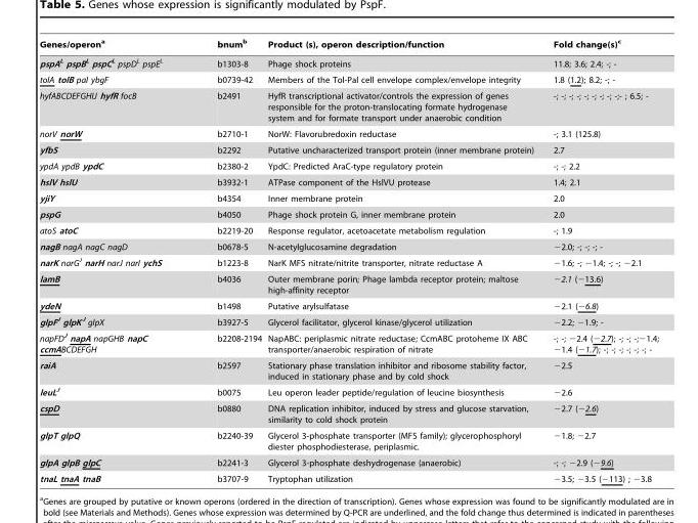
<table><thead><tr><td>Genes/operon<sup>a</sup></td><td>bnum<sup>b</sup></td><td>Product (s), operon description/function</td><td>Fold change(s)<sup>c</sup></td></tr></thead><tbody><tr><td>pspA<sup>L</sup> pspB<sup>L</sup> pspC<sup>L</sup> pspD<sup>L</sup> pspE<sup>L</sup></td><td>b1303-8</td><td>Phage shock proteins</td><td>11.8; 3.6; 2.4; -; -</td></tr><tr><td>tolA tolB pal ybgF</td><td>b0739-42</td><td>Members of the Tol-Pal cell envelope complex/envelope integrity</td><td>1.8 (1.2); 8.2; -; -</td></tr><tr><td>hyfABCDEFGHIJ hyfR focB</td><td>b2491</td><td>HyfR transcriptional activator/controls the expression of genes responsible for the proton-translocating formate hydrogenase system and for formate transport under anaerobic condition</td><td>-; -; -; -; -; -; -; -; -;- ; 6.5; -</td></tr><tr><td>norV norW</td><td>b2710-1</td><td>NorW: Flavorubredoxin reductase</td><td>-; 3.1 (125.8)</td></tr><tr><td>yfbS</td><td>b2292</td><td>Putative uncharacterized transport protein (inner membrane protein)</td><td>2.7</td></tr><tr><td>ypdA ypdB ypdC</td><td>b2380-2</td><td>YpdC: Predicted AraC-type regulatory protein</td><td>-; -; 2.2</td></tr><tr><td>hslV hslU</td><td>b3932-1</td><td>ATPase component of the HslVU protease</td><td>1.4; 2.1</td></tr><tr><td>yjiY</td><td>b4354</td><td>Inner membrane protein</td><td>2.0</td></tr><tr><td>pspG</td><td>b4050</td><td>Phage shock protein G, inner membrane protein</td><td>2.0</td></tr><tr><td>atoS atoC</td><td>b2219-20</td><td>Response regulator, acetoacetate metabolism regulation</td><td>-; 1.9</td></tr><tr><td>nagB nagA nagC nagD</td><td>b0678-5</td><td>N-acetylglucosamine degradation</td><td>−2.0; -; -; -; -</td></tr><tr><td>narK narG<sup>J</sup> narH narJ narI ychS</td><td>b1223-8</td><td>NarK MFS nitrate/nitrite transporter, nitrate reductase A</td><td>−1.6; -; −1.4; -; -; −2.1</td></tr><tr><td>lamB</td><td>b4036</td><td>Outer membrane porin; Phage lambda receptor protein; maltose high-affinity receptor</td><td>−2.1 (−13.6)</td></tr><tr><td>ydeN</td><td>b1498</td><td>Putative arylsulfatase</td><td>−2.1 (−6.8)</td></tr><tr><td>glpF<sup>J</sup> glpK <sup>J</sup> glpX</td><td>b3927-5</td><td>Glycerol facilitator, glycerol kinase/glycerol utilization</td><td>−2.2; −1.9; -</td></tr><tr><td>napFD<sup>J</sup> napA napGHB napC ccmABCDEFGH</td><td>b2208-2194</td><td>NapABC: periplasmic nitrate reductase; CcmABC protoheme IX ABC transporter/anaerobic respiration of nitrate</td><td>-; -; −2.4 (−2.7); -; -; -;−1.4; −1.4 (−1.7); -; -; -; -; -; -; -</td></tr><tr><td>raiA</td><td>b2597</td><td>Stationary phase translation inhibitor and ribosome stability factor, induced in stationary phase and by cold shock</td><td>−2.5</td></tr><tr><td>leuL<sup>J</sup></td><td>b0075</td><td>Leu operon leader peptide/regulation of leucine biosynthesis</td><td>−2.6</td></tr><tr><td>cspD</td><td>b0880</td><td>DNA replication inhibitor, induced by stress and glucose starvation, similarity to cold shock protein</td><td>−2.7 (−2.6)</td></tr><tr><td>glpT glpQ</td><td>b2240-39</td><td>Glycerol 3-phosphate transporter (MFS family); glycerophosphoryl diester phosphodiesterase, periplasmic.</td><td>−1.8; −2.7</td></tr><tr><td>glpA glpB glpC</td><td>b2241-3</td><td>Glycerol 3-phosphate deshydrogenase (anaerobic)</td><td>-; -; −2.9 (−9.6)</td></tr><tr><td>tnaL tnaA tnaB</td><td>b3707-9</td><td>Tryptophan utilization</td><td>−3.5; −3.5 (−113) ; −3.8</td></tr></tbody></table>